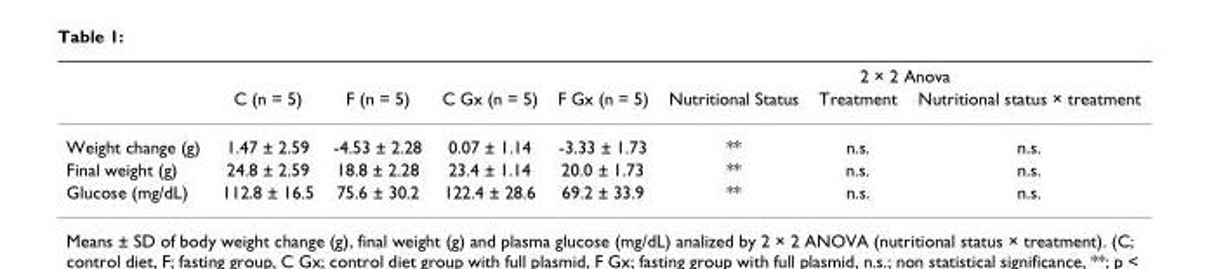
<table><thead><tr><td rowspan="2"></td><td rowspan="2">C (n = 5)</td><td rowspan="2">F (n = 5)</td><td rowspan="2">C Gx (n = 5)</td><td rowspan="2">F Gx (n = 5)</td><td colspan="3">2 × 2 Anova</td></tr><tr><td>Nutritional Status</td><td>Treatment</td><td>Nutritional status × treatment</td></tr></thead><tbody><tr><td>Weight change (g)</td><td>1.47 ± 2.59</td><td>-4.53 ± 2.28</td><td>0.07 ± 1.14</td><td>-3.33 ± 1.73</td><td>**</td><td>n.s.</td><td>n.s.</td></tr><tr><td>Final weight (g)</td><td>24.8 ± 2.59</td><td>18.8 ± 2.28</td><td>23.4 ± 1.14</td><td>20.0 ± 1.73</td><td>**</td><td>n.s.</td><td>n.s.</td></tr><tr><td>Glucose (mg/dL)</td><td>112.8 ± 16.5</td><td>75.6 ± 30.2</td><td>122.4 ± 28.6</td><td>69.2 ± 33.9</td><td>**</td><td>n.s.</td><td>n.s.</td></tr></tbody></table>